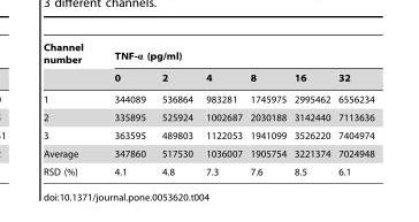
<table><thead><tr><td rowspan="2">Channel number</td><td colspan="6">TNF-α (pg/ml)</td></tr><tr><td>0</td><td>2</td><td>4</td><td>8</td><td>16</td><td>32</td></tr></thead><tbody><tr><td>1</td><td>344089</td><td>536864</td><td>983281</td><td>1745975</td><td>2995462</td><td>6556234</td></tr><tr><td>2</td><td>335895</td><td>525924</td><td>1002687</td><td>2030188</td><td>3142440</td><td>7113636</td></tr><tr><td>3</td><td>363595</td><td>489803</td><td>1122053</td><td>1941099</td><td>3526220</td><td>7404974</td></tr><tr><td>Average</td><td>347860</td><td>517530</td><td>1036007</td><td>1905754</td><td>3221374</td><td>7024948</td></tr><tr><td>RSD (%)</td><td>4.1</td><td>4.8</td><td>7.3</td><td>7.6</td><td>8.5</td><td>6.1</td></tr></tbody></table>